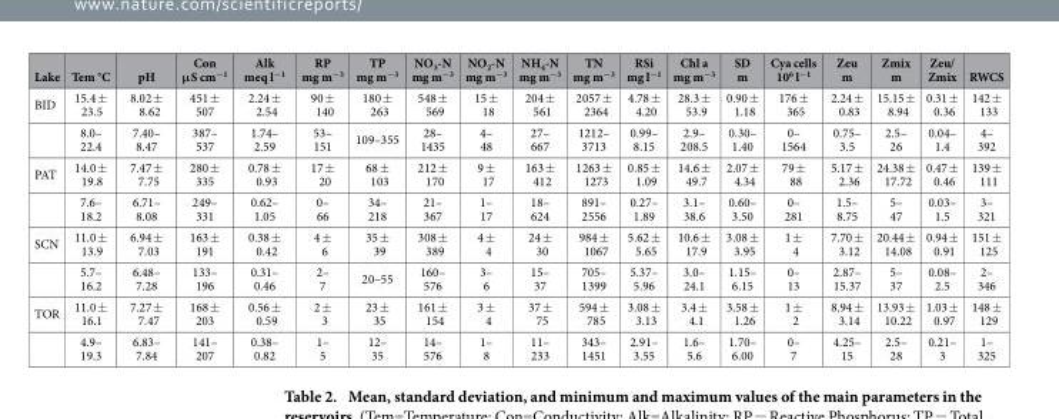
<table><thead><tr><td>Lake</td><td>Tem °C</td><td>pH</td><td>Con μ S cm<sup>−1</sup></td><td>Alk meq l<sup>−1</sup></td><td>RP mg m<sup>−3</sup></td><td>TP mg m<sup>−3</sup></td><td>NO<sub>3</sub>-N mg m<sup>−3</sup></td><td>NO<sub>2</sub>-N mg m<sup>−3</sup></td><td>NH<sub>4</sub>-N mg m<sup>−3</sup></td><td>TN mg m<sup>−3</sup></td><td>RSi mg l<sup>−1</sup></td><td>Chl a mg m<sup>−3</sup></td><td>SD m</td><td>Cya cells 10<sup>6</sup> l<sup>−1</sup></td><td>Zeu m</td><td>Zmix m</td><td>Zeu/ Zmix</td><td>RWCS</td></tr></thead><tbody><tr><td rowspan="2">BID</td><td>15.4 ± 23.5</td><td>8.02 ± 8.62</td><td>451 ± 507</td><td>2.24 ± 2.54</td><td>90 ± 140</td><td>180 ± 263</td><td>548 ± 569</td><td>15 ± 18</td><td>204 ± 561</td><td>2057 ± 2364</td><td>4.78 ± 4.20</td><td>28.3 ± 53.9</td><td>0.90 ± 1.18</td><td>176 ± 365</td><td>2.24 ± 0.83</td><td>15.15 ± 8.94</td><td>0.31 ± 0.36</td><td>142 ± 133</td></tr><tr><td>8.0– 22.4</td><td>7.40– 8.47</td><td>387– 537</td><td>1.74– 2.59</td><td>53– 151</td><td>109–355</td><td>28– 1435</td><td>4– 48</td><td>27– 667</td><td>1212– 3713</td><td>0.99– 8.15</td><td>2.9– 208.5</td><td>0.30– 1.40</td><td>0– 1564</td><td>0.75– 3.5</td><td>2.5– 26</td><td>0.04– 1.4</td><td>4– 392</td></tr><tr><td rowspan="2">PAT</td><td>14.0 ± 19.8</td><td>7.47 ± 7.75</td><td>280 ± 335</td><td>0.78 ± 0.93</td><td>17 ± 20</td><td>68 ± 103</td><td>212 ± 170</td><td>9 ± 17</td><td>163 ± 412</td><td>1263 ± 1273</td><td>0.85 ± 1.09</td><td>14.6 ± 49.7</td><td>2.07 ± 4.34</td><td>79 ± 88</td><td>5.17 ± 2.36</td><td>24.38 ± 17.72</td><td>0.47 ± 0.46</td><td>139 ± 111</td></tr><tr><td>7.6– 18.2</td><td>6.71– 8.08</td><td>249– 331</td><td>0.62– 1.05</td><td>0– 66</td><td>34– 218</td><td>21– 367</td><td>1– 17</td><td>18– 624</td><td>891– 2556</td><td>0.27– 1.89</td><td>3.1– 38.6</td><td>0.60– 3.50</td><td>0– 281</td><td>1.5– 8.75</td><td>5– 47</td><td>0.03– 1.5</td><td>3– 321</td></tr><tr><td rowspan="2">SCN</td><td>11.0 ± 13.9</td><td>6.94 ± 7.03</td><td>163 ± 191</td><td>0.38 ± 0.42</td><td>4 ± 6</td><td>35 ± 39</td><td>308 ± 389</td><td>4 ± 4</td><td>24 ± 30</td><td>984 ± 1067</td><td>5.62 ± 5.65</td><td>10.6 ± 17.9</td><td>3.08 ± 3.95</td><td>1 ± 4</td><td>7.70 ± 3.12</td><td>20.44 ± 14.08</td><td>0.94 ± 0.91</td><td>151 ± 125</td></tr><tr><td>5.7– 16.2</td><td>6.48– 7.28</td><td>133– 196</td><td>0.31– 0.46</td><td>2– 7</td><td>20–55</td><td>160– 576</td><td>3– 6</td><td>15– 37</td><td>705– 1399</td><td>5.37– 5.96</td><td>3.0– 24.1</td><td>1.15– 6.15</td><td>0– 13</td><td>2.87– 15.37</td><td>5– 37</td><td>0.08– 2.5</td><td>2– 346</td></tr><tr><td rowspan="2">TOR</td><td>11.0 ± 16.1</td><td>7.27 ± 7.47</td><td>168 ± 203</td><td>0.56 ± 0.59</td><td>2 ± 3</td><td>23 ± 35</td><td>161 ± 154</td><td>3 ± 4</td><td>37 ± 75</td><td>594 ± 785</td><td>3.08 ± 3.13</td><td>3.4 ± 4.1</td><td>3.58 ± 1.26</td><td>1 ± 2</td><td>8.94 ± 3.14</td><td>13.93 ± 10.22</td><td>1.03 ± 0.97</td><td>148 ± 129</td></tr><tr><td>4.9– 19.3</td><td>6.83– 7.84</td><td>141– 207</td><td>0.38– 0.82</td><td>1– 5</td><td>12– 35</td><td>14– 576</td><td>1– 8</td><td>11– 233</td><td>343– 1451</td><td>2.91– 3.55</td><td>1.6– 5.6</td><td>1.70– 6.00</td><td>0– 7</td><td>4.25– 15</td><td>2.5– 28</td><td>0.21– 3</td><td>1– 325</td></tr></tbody></table>